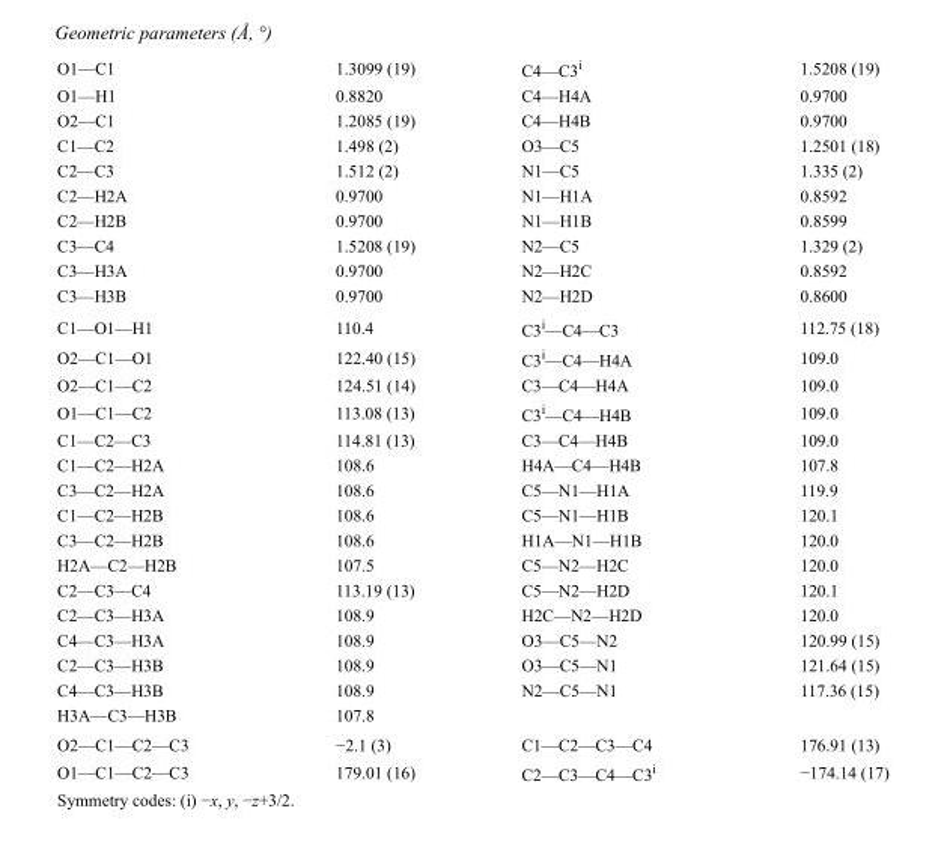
<table><tbody><tr><td>O1—C1</td><td>1.3099 (19)</td><td>C4—C3<sup>i</sup></td><td>1.5208 (19)</td></tr><tr><td>O1—H1</td><td>0.8820</td><td>C4—H4A</td><td>0.9700</td></tr><tr><td>O2—C1</td><td>1.2085 (19)</td><td>C4—H4B</td><td>0.9700</td></tr><tr><td>C1—C2</td><td>1.498 (2)</td><td>O3—C5</td><td>1.2501 (18)</td></tr><tr><td>C2—C3</td><td>1.512 (2)</td><td>N1—C5</td><td>1.335 (2)</td></tr><tr><td>C2—H2A</td><td>0.9700</td><td>N1—H1A</td><td>0.8592</td></tr><tr><td>C2—H2B</td><td>0.9700</td><td>N1—H1B</td><td>0.8599</td></tr><tr><td>C3—C4</td><td>1.5208 (19)</td><td>N2—C5</td><td>1.329 (2)</td></tr><tr><td>C3—H3A</td><td>0.9700</td><td>N2—H2C</td><td>0.8592</td></tr><tr><td>C3—H3B</td><td>0.9700</td><td>N2—H2D</td><td>0.8600</td></tr><tr><td>C1—O1—H1</td><td>110.4</td><td>C3<sup>i</sup>—C4—C3</td><td>112.75 (18)</td></tr><tr><td>O2—C1—O1</td><td>122.40 (15)</td><td>C3<sup>i</sup>—C4—H4A</td><td>109.0</td></tr><tr><td>O2—C1—C2</td><td>124.51 (14)</td><td>C3—C4—H4A</td><td>109.0</td></tr><tr><td>O1—C1—C2</td><td>113.08 (13)</td><td>C3<sup>i</sup>—C4—H4B</td><td>109.0</td></tr><tr><td>C1—C2—C3</td><td>114.81 (13)</td><td>C3—C4—H4B</td><td>109.0</td></tr><tr><td>C1—C2—H2A</td><td>108.6</td><td>H4A—C4—H4B</td><td>107.8</td></tr><tr><td>C3—C2—H2A</td><td>108.6</td><td>C5—N1—H1A</td><td>119.9</td></tr><tr><td>C1—C2—H2B</td><td>108.6</td><td>C5—N1—H1B</td><td>120.1</td></tr><tr><td>C3—C2—H2B</td><td>108.6</td><td>H1A—N1—H1B</td><td>120.0</td></tr><tr><td>H2A—C2—H2B</td><td>107.5</td><td>C5—N2—H2C</td><td>120.0</td></tr><tr><td>C2—C3—C4</td><td>113.19 (13)</td><td>C5—N2—H2D</td><td>120.1</td></tr><tr><td>C2—C3—H3A</td><td>108.9</td><td>H2C—N2—H2D</td><td>120.0</td></tr><tr><td>C4—C3—H3A</td><td>108.9</td><td>O3—C5—N2</td><td>120.99 (15)</td></tr><tr><td>C2—C3—H3B</td><td>108.9</td><td>O3—C5—N1</td><td>121.64 (15)</td></tr><tr><td>C4—C3—H3B</td><td>108.9</td><td>N2—C5—N1</td><td>117.36 (15)</td></tr><tr><td>H3A—C3—H3B</td><td>107.8</td><td></td><td></td></tr><tr><td>O2—C1—C2—C3</td><td>−2.1 (3)</td><td>C1—C2—C3—C4</td><td>176.91 (13)</td></tr><tr><td>O1—C1—C2—C3</td><td>179.01 (16)</td><td>C2—C3—C4—C3<sup>i</sup></td><td>−174.14 (17)</td></tr></tbody></table>